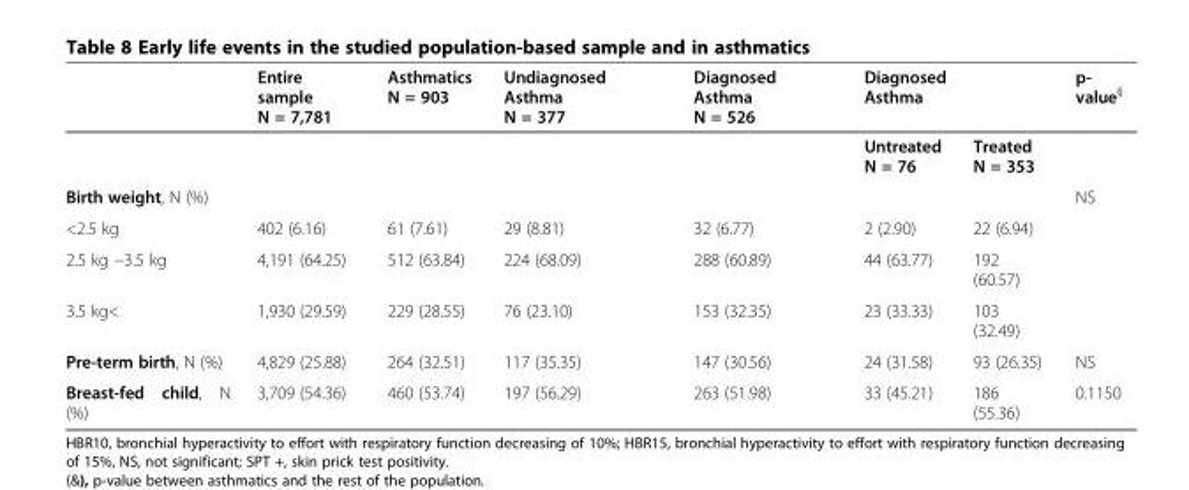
<table><thead><tr><td rowspan="2"></td><td rowspan="2">Entire sample N = 7,781</td><td rowspan="2">Asthmatics N = 903</td><td rowspan="2">Undiagnosed Asthma N = 377</td><td rowspan="2">Diagnosed Asthma N = 526</td><td colspan="2">Diagnosed Asthma</td><td rowspan="2">p- value<sup>§</sup></td></tr><tr><td>Untreated N = 76</td><td>Treated N = 353</td></tr></thead><tbody><tr><td>Birth weight, N (%)</td><td></td><td></td><td></td><td></td><td></td><td></td><td>NS</td></tr><tr><td>&lt;2.5 kg</td><td>402 (6.16)</td><td>61 (7.61)</td><td>29 (8.81)</td><td>32 (6.77)</td><td>2 (2.90)</td><td>22 (6.94)</td><td></td></tr><tr><td>2.5 kg −3.5 kg</td><td>4,191 (64.25)</td><td>512 (63.84)</td><td>224 (68.09)</td><td>288 (60.89)</td><td>44 (63.77)</td><td>192 (60.57)</td><td></td></tr><tr><td>3.5 kg&lt;</td><td>1,930 (29.59)</td><td>229 (28.55)</td><td>76 (23.10)</td><td>153 (32.35)</td><td>23 (33.33)</td><td>103 (32.49)</td><td></td></tr><tr><td>Pre-term birth, N (%)</td><td>4,829 (25.88)</td><td>264 (32.51)</td><td>117 (35.35)</td><td>147 (30.56)</td><td>24 (31.58)</td><td>93 (26.35)</td><td>NS</td></tr><tr><td>Breast-fed child, N (%)</td><td>3,709 (54.36)</td><td>460 (53.74)</td><td>197 (56.29)</td><td>263 (51.98)</td><td>33 (45.21)</td><td>186 (55.36)</td><td>0.1150</td></tr></tbody></table>